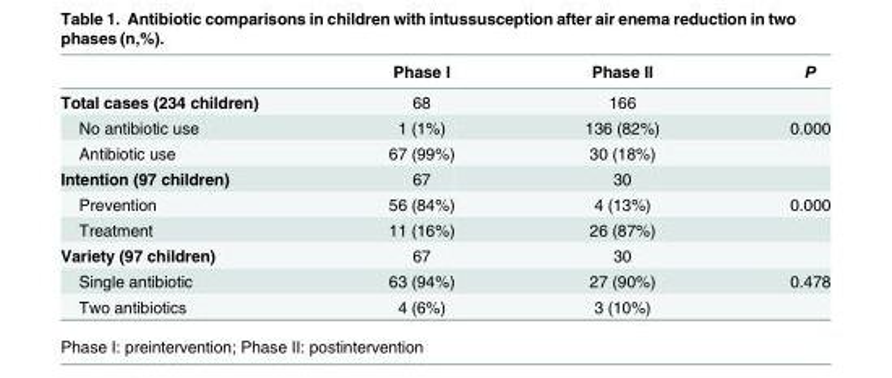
<table><thead><tr><td></td><td>Phase I</td><td>Phase II</td><td>P</td></tr></thead><tbody><tr><td>Total cases (234 children)</td><td>68</td><td>166</td><td></td></tr><tr><td>No antibiotic use</td><td>1 (1%)</td><td>136 (82%)</td><td>0.000</td></tr><tr><td>Antibiotic use</td><td>67 (99%)</td><td>30 (18%)</td><td></td></tr><tr><td>Intention (97 children)</td><td>67</td><td>30</td><td></td></tr><tr><td>Prevention</td><td>56 (84%)</td><td>4 (13%)</td><td>0.000</td></tr><tr><td>Treatment</td><td>11 (16%)</td><td>26 (87%)</td><td></td></tr><tr><td>Variety (97 children)</td><td>67</td><td>30</td><td></td></tr><tr><td>Single antibiotic</td><td>63 (94%)</td><td>27 (90%)</td><td>0.478</td></tr><tr><td>Two antibiotics</td><td>4 (6%)</td><td>3 (10%)</td><td></td></tr></tbody></table>